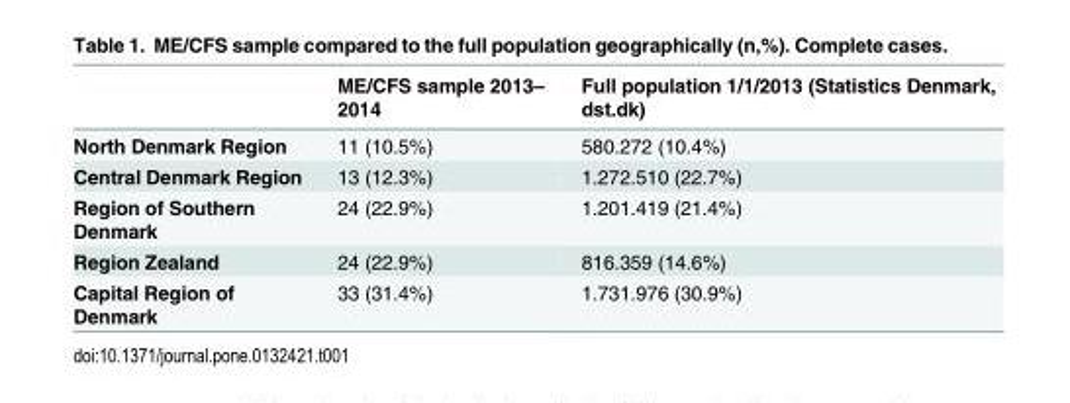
<table><thead><tr><td></td><td>ME/CFS sample 2013– 2014</td><td>Full population 1/1/2013 (Statistics Denmark, dst.dk)</td></tr></thead><tbody><tr><td>North Denmark Region</td><td>11 (10.5%)</td><td>580.272 (10.4%)</td></tr><tr><td>Central Denmark Region</td><td>13 (12.3%)</td><td>1.272.510 (22.7%)</td></tr><tr><td>Region of Southern Denmark</td><td>24 (22.9%)</td><td>1.201.419 (21.4%)</td></tr><tr><td>Region Zealand</td><td>24 (22.9%)</td><td>816.359 (14.6%)</td></tr><tr><td>Capital Region of Denmark</td><td>33 (31.4%)</td><td>1.731.976 (30.9%)</td></tr></tbody></table>